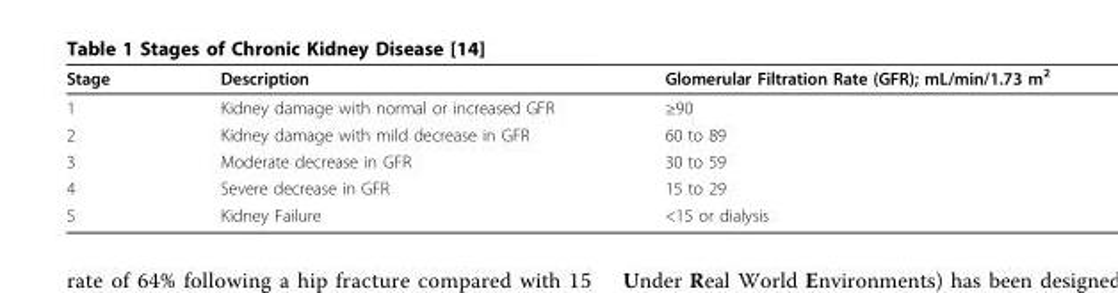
<table><thead><tr><td>Stage</td><td>Description</td><td>Glomerular Filtration Rate (GFR); mL/min/1.73 m<sup>2</sup></td></tr></thead><tbody><tr><td>1</td><td>Kidney damage with normal or increased GFR</td><td>≥90</td></tr><tr><td>2</td><td>Kidney damage with mild decrease in GFR</td><td>60 to 89</td></tr><tr><td>3</td><td>Moderate decrease in GFR</td><td>30 to 59</td></tr><tr><td>4</td><td>Severe decrease in GFR</td><td>15 to 29</td></tr><tr><td>5</td><td>Kidney Failure</td><td>&lt;15 or dialysis</td></tr></tbody></table>